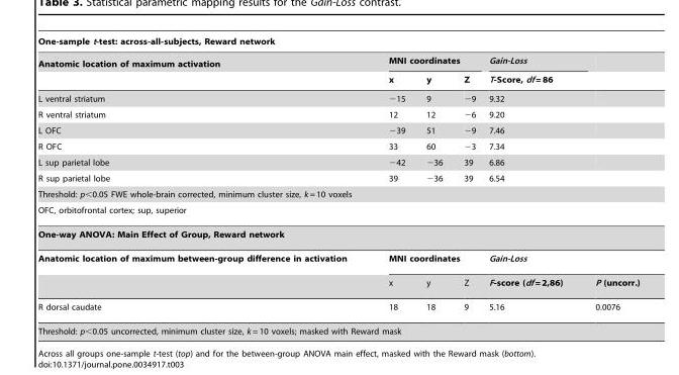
<table><thead><tr><td colspan="6">One-sample t-test: across-all-subjects, Reward network</td></tr><tr><td rowspan="2">Anatomic location of maximum activation</td><td colspan="3">MNI coordinates</td><td rowspan="2">Gain-Loss T-Score, df = 86</td><td rowspan="2"></td></tr><tr><td>x</td><td>y</td><td>Z</td></tr></thead><tbody><tr><td>L ventral striatum</td><td>−15</td><td>9</td><td>−9</td><td>9.32</td><td></td></tr><tr><td>R ventral striatum</td><td>12</td><td>12</td><td>−6</td><td>9.20</td><td></td></tr><tr><td>L OFC</td><td>−39</td><td>51</td><td>−9</td><td>7.46</td><td></td></tr><tr><td>R OFC</td><td>33</td><td>60</td><td>−3</td><td>7.34</td><td></td></tr><tr><td>L sup parietal lobe</td><td>−42</td><td>−36</td><td>39</td><td>6.86</td><td></td></tr><tr><td>R sup parietal lobe</td><td>39</td><td>−36</td><td>39</td><td>6.54</td><td></td></tr><tr><td colspan="6">Threshold: p&lt;0.05 FWE whole-brain corrected, minimum cluster size, k = 10 voxels</td></tr><tr><td colspan="6">OFC, orbitofrontal cortex; sup, superior</td></tr><tr><td colspan="6">One-way ANOVA: Main Effect of Group, Reward network</td></tr><tr><td rowspan="2">Anatomic location of maximum between-group difference in activation</td><td colspan="3">MNI coordinates</td><td colspan="2">Gain-Loss</td></tr><tr><td>x</td><td>y</td><td>Z</td><td>F-score (df = 2,86)</td><td>P (uncorr.)</td></tr><tr><td>R dorsal caudate</td><td>18</td><td>18</td><td>9</td><td>5.16</td><td>0.0076</td></tr><tr><td colspan="6">Threshold: p&lt;0.05 uncorrected, minimum cluster size, k = 10 voxels; masked with Reward mask</td></tr></tbody></table>